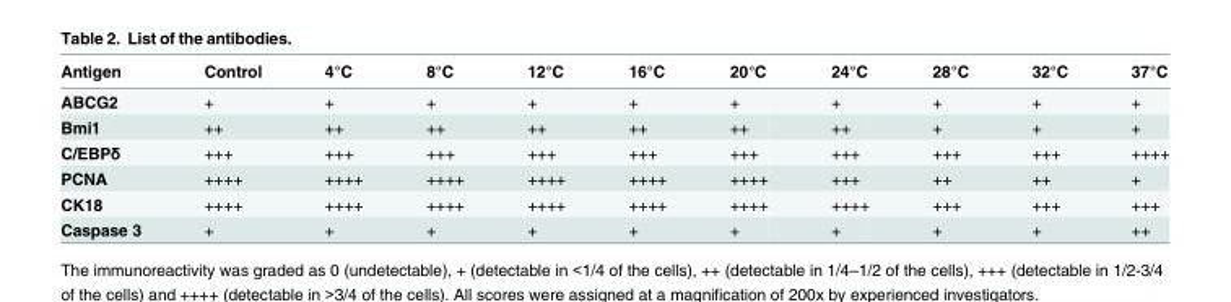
<table><thead><tr><td>Antigen</td><td>Control</td><td>4°C</td><td>8°C</td><td>12°C</td><td>16°C</td><td>20°C</td><td>24°C</td><td>28°C</td><td>32°C</td><td>37°C</td></tr></thead><tbody><tr><td>ABCG2</td><td>+</td><td>+</td><td>+</td><td>+</td><td>+</td><td>+</td><td>+</td><td>+</td><td>+</td><td>+</td></tr><tr><td>Bmi1</td><td>++</td><td>++</td><td>++</td><td>++</td><td>++</td><td>++</td><td>++</td><td>+</td><td>+</td><td>+</td></tr><tr><td>C/EBPδ</td><td>+++</td><td>+++</td><td>+++</td><td>+++</td><td>+++</td><td>+++</td><td>+++</td><td>+++</td><td>+++</td><td>++++</td></tr><tr><td>PCNA</td><td>++++</td><td>++++</td><td>++++</td><td>++++</td><td>++++</td><td>++++</td><td>+++</td><td>++</td><td>++</td><td>+</td></tr><tr><td>CK18</td><td>++++</td><td>++++</td><td>++++</td><td>++++</td><td>++++</td><td>++++</td><td>++++</td><td>+++</td><td>+++</td><td>+++</td></tr><tr><td>Caspase 3</td><td>+</td><td>+</td><td>+</td><td>+</td><td>+</td><td>+</td><td>+</td><td>+</td><td>+</td><td>++</td></tr></tbody></table>